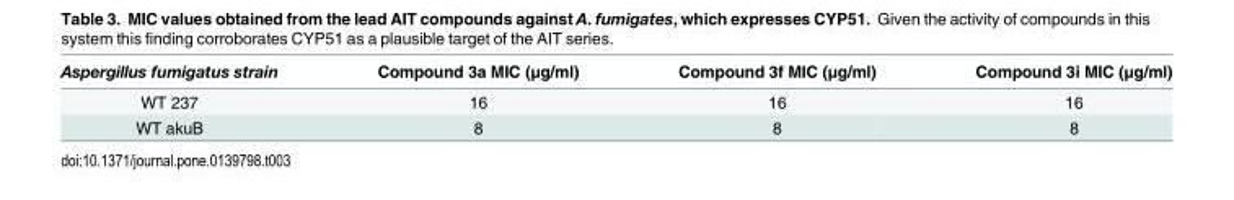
<table><thead><tr><td>Aspergillus fumigatus strain</td><td>Compound 3a MIC (μg/ml)</td><td>Compound 3f MIC (μg/ml)</td><td>Compound 3i MIC (μg/ml)</td></tr></thead><tbody><tr><td>WT 237</td><td>16</td><td>16</td><td>16</td></tr><tr><td>WT akuB</td><td>8</td><td>8</td><td>8</td></tr></tbody></table>